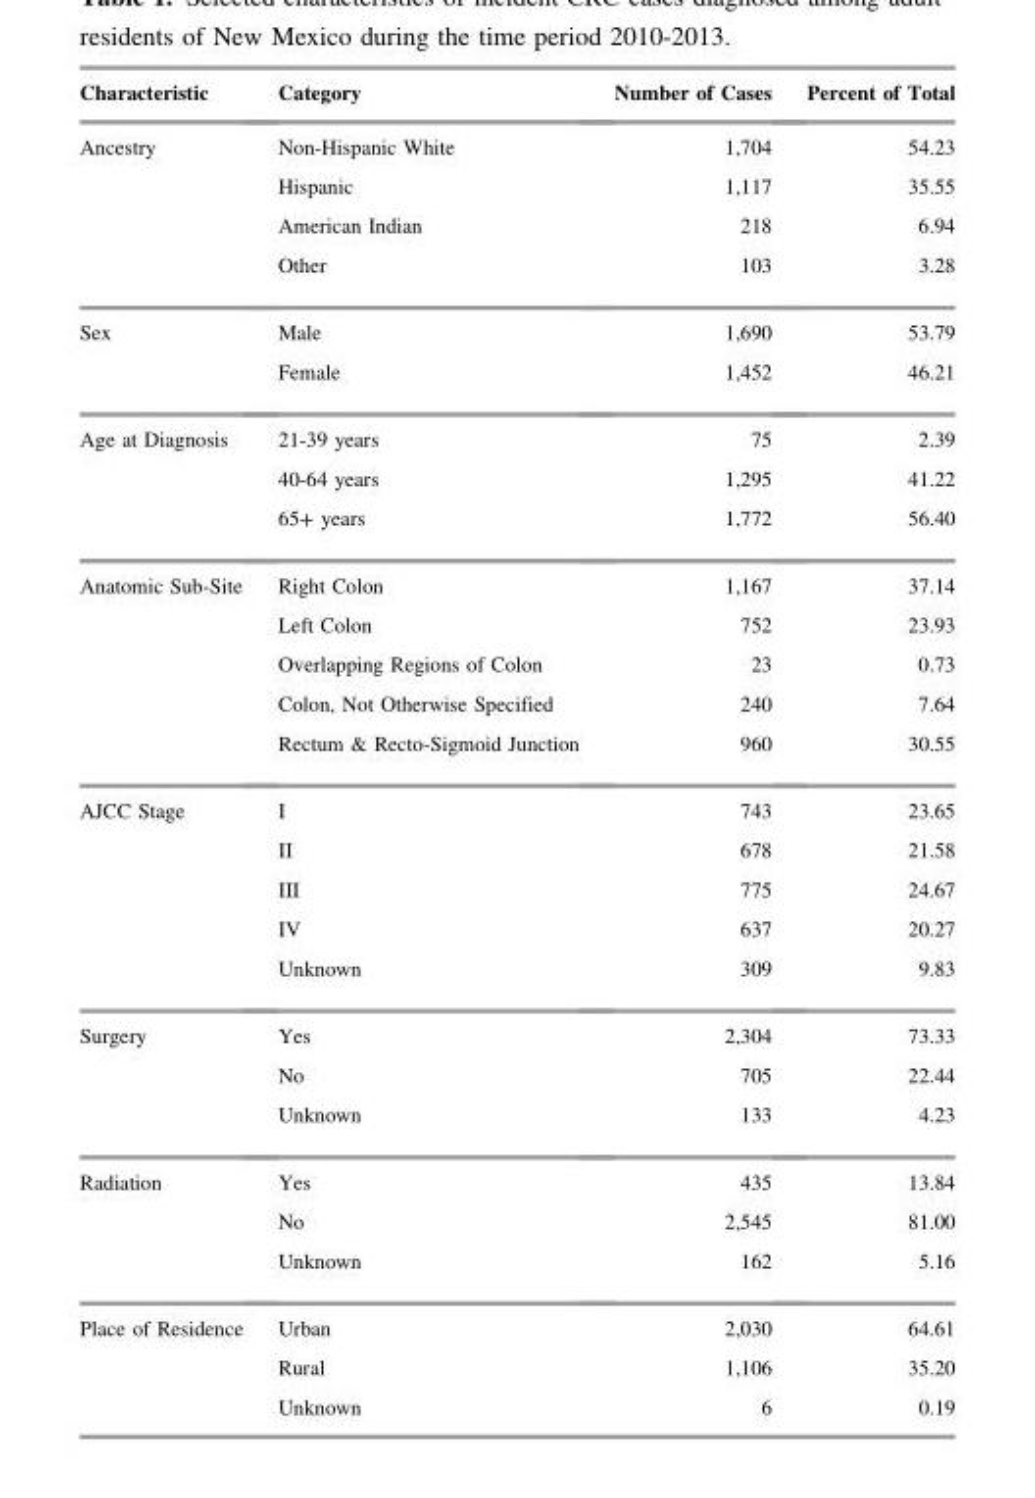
<table><thead><tr><td>Characteristic</td><td>Category</td><td>Number of Cases</td><td>Percent of Total</td></tr></thead><tbody><tr><td rowspan="4">Ancestry</td><td>Non-Hispanic White</td><td>1,704</td><td>54.23</td></tr><tr><td>Hispanic</td><td>1,117</td><td>35.55</td></tr><tr><td>American Indian</td><td>218</td><td>6.94</td></tr><tr><td>Other</td><td>103</td><td>3.28</td></tr><tr><td rowspan="2">Sex</td><td>Male</td><td>1,690</td><td>53.79</td></tr><tr><td>Female</td><td>1,452</td><td>46.21</td></tr><tr><td rowspan="3">Age at Diagnosis</td><td>21-39 years</td><td>75</td><td>2.39</td></tr><tr><td>40-64 years</td><td>1,295</td><td>41.22</td></tr><tr><td>65+ years</td><td>1,772</td><td>56.40</td></tr><tr><td rowspan="5">Anatomic Sub-Site</td><td>[3_TD$DIF]Right Colon</td><td>1,167</td><td>37.14</td></tr><tr><td>Left Colon</td><td>752</td><td>23.93</td></tr><tr><td>Overlapping Regions of Colon</td><td>23</td><td>0.73</td></tr><tr><td>Colon, Not Otherwise Specified</td><td>240</td><td>7.64</td></tr><tr><td>Rectum &amp; Recto-Sigmoid Junction</td><td>960</td><td>30.55</td></tr><tr><td rowspan="5">AJCC Stage</td><td>I</td><td>743</td><td>23.65</td></tr><tr><td>II</td><td>678</td><td>21.58</td></tr><tr><td>III</td><td>775</td><td>24.67</td></tr><tr><td>IV</td><td>637</td><td>20.27</td></tr><tr><td>Unknown</td><td>309</td><td>9.83</td></tr><tr><td rowspan="3">Surgery</td><td>Yes</td><td>2,304</td><td>73.33</td></tr><tr><td>No</td><td>705</td><td>22.44</td></tr><tr><td>Unknown</td><td>133</td><td>4.23</td></tr><tr><td rowspan="3">Radiation</td><td>Yes</td><td>435</td><td>13.84</td></tr><tr><td>No</td><td>2,545</td><td>81.00</td></tr><tr><td>Unknown</td><td>162</td><td>5.16</td></tr><tr><td rowspan="3">Place of Residence</td><td>Urban</td><td>2,030</td><td>64.61</td></tr><tr><td>Rural</td><td>1,106</td><td>35.20</td></tr><tr><td>Unknown</td><td>6</td><td>0.19</td></tr></tbody></table>